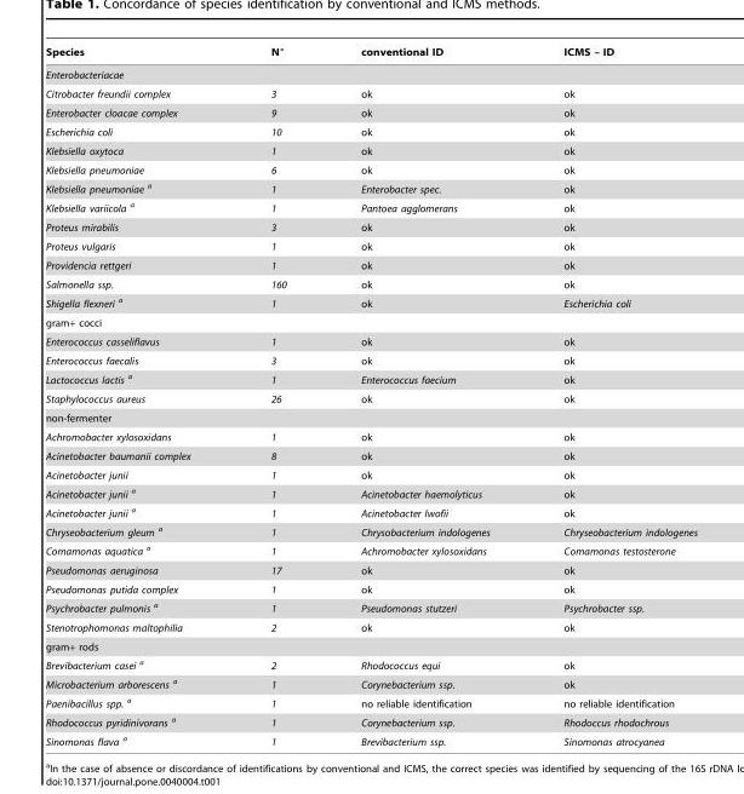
<table><thead><tr><td>Species</td><td>N°</td><td>conventional ID</td><td>ICMS – ID</td></tr></thead><tbody><tr><td colspan="4">Enterobacteriacae</td></tr><tr><td>Citrobacter freundii complex</td><td>3</td><td>ok</td><td>ok</td></tr><tr><td>Enterobacter cloacae complex</td><td>9</td><td>ok</td><td>ok</td></tr><tr><td>Escherichia coli</td><td>10</td><td>ok</td><td>ok</td></tr><tr><td>Klebsiella oxytoca</td><td>1</td><td>ok</td><td>ok</td></tr><tr><td>Klebsiella pneumoniae</td><td>6</td><td>ok</td><td>ok</td></tr><tr><td>Klebsiella pneumoniae a</td><td>1</td><td>Enterobacter spec.</td><td>ok</td></tr><tr><td>Klebsiella variicola a</td><td>1</td><td>Pantoea agglomerans</td><td>ok</td></tr><tr><td>Proteus mirabilis</td><td>3</td><td>ok</td><td>ok</td></tr><tr><td>Proteus vulgaris</td><td>1</td><td>ok</td><td>ok</td></tr><tr><td>Providencia rettgeri</td><td>1</td><td>ok</td><td>ok</td></tr><tr><td>Salmonella ssp.</td><td>160</td><td>ok</td><td>ok</td></tr><tr><td>Shigella flexneri a</td><td>1</td><td>ok</td><td>Escherichia coli</td></tr><tr><td colspan="4">gram+ cocci</td></tr><tr><td>Enterococcus casseliflavus</td><td>1</td><td>ok</td><td>ok</td></tr><tr><td>Enterococcus faecalis</td><td>3</td><td>ok</td><td>ok</td></tr><tr><td>Lactococcus lactis a</td><td>1</td><td>Enterococcus faecium</td><td>ok</td></tr><tr><td>Staphylococcus aureus</td><td>26</td><td>ok</td><td>ok</td></tr><tr><td colspan="4">non-fermenter</td></tr><tr><td>Achromobacter xylosoxidans</td><td>1</td><td>ok</td><td>ok</td></tr><tr><td>Acinetobacter baumanii complex</td><td>8</td><td>ok</td><td>ok</td></tr><tr><td>Acinetobacter junii</td><td>1</td><td>ok</td><td>ok</td></tr><tr><td>Acinetobacter junii a</td><td>1</td><td>Acinetobacter haemolyticus</td><td>ok</td></tr><tr><td>Acinetobacter junii a</td><td>1</td><td>Acinetobacter lwofii</td><td>ok</td></tr><tr><td>Chryseobacterium gleum a</td><td>1</td><td>Chrysobacterium indologenes</td><td>Chryseobacterium indologenes</td></tr><tr><td>Comamonas aquatica a</td><td>1</td><td>Achromobacter xylosoxidans</td><td>Comamonas testosterone</td></tr><tr><td>Pseudomonas aeruginosa</td><td>17</td><td>ok</td><td>ok</td></tr><tr><td>Pseudomonas putida complex</td><td>1</td><td>ok</td><td>ok</td></tr><tr><td>Psychrobacter pulmonis a</td><td>1</td><td>Pseudomonas stutzeri</td><td>Psychrobacter ssp.</td></tr><tr><td>Stenotrophomonas maltophilia</td><td>2</td><td>ok</td><td>ok</td></tr><tr><td colspan="4">gram+ rods</td></tr><tr><td>Brevibacterium casei a</td><td>2</td><td>Rhodococcus equi</td><td>ok</td></tr><tr><td>Microbacterium arborescens a</td><td>1</td><td>Corynebacterium ssp.</td><td>ok</td></tr><tr><td>Paenibacillus spp. a</td><td>1</td><td>no reliable identification</td><td>no reliable identification</td></tr><tr><td>Rhodococcus pyridinivorans a</td><td>1</td><td>Corynebacterium ssp.</td><td>Rhodoccus rhodochrous</td></tr><tr><td>Sinomonas flava a</td><td>1</td><td>Brevibacterium ssp.</td><td>Sinomonas atrocyanea</td></tr></tbody></table>